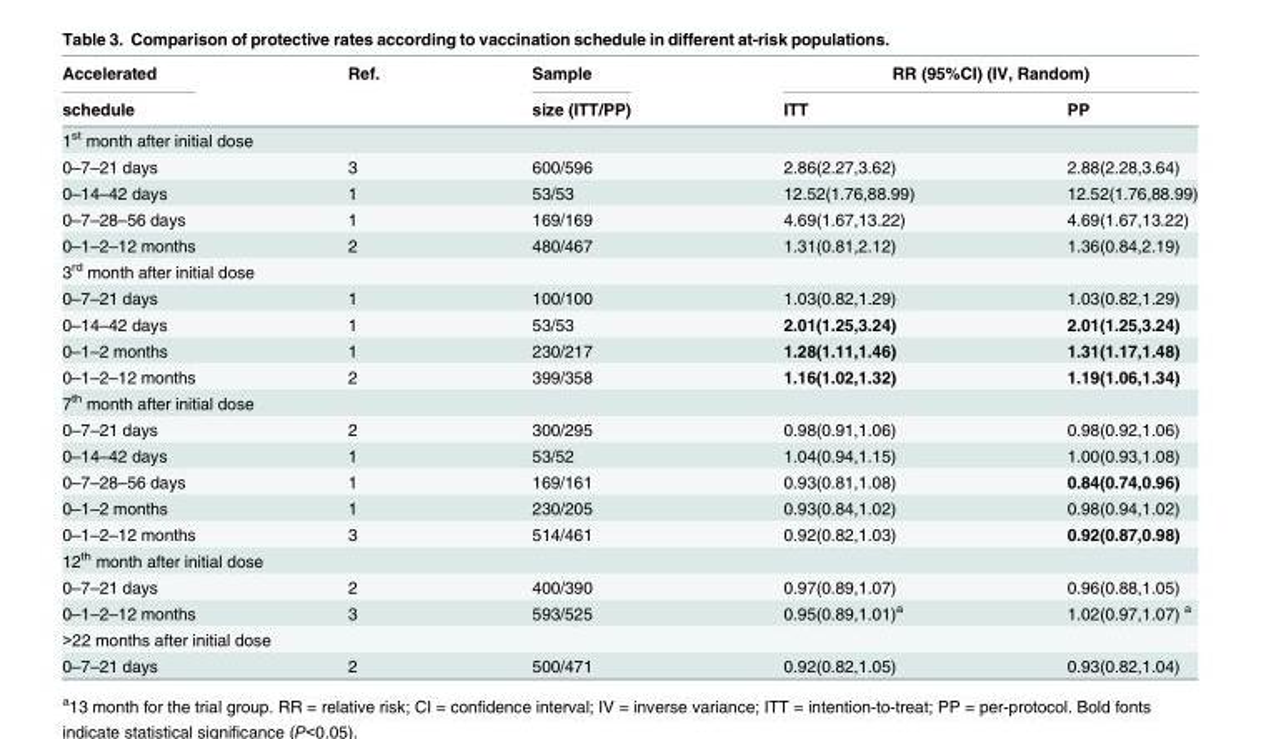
<table><thead><tr><td rowspan="2">Accelerated schedule</td><td rowspan="2">Ref.</td><td rowspan="2">Sample size (ITT/PP)</td><td colspan="2">RR (95%CI) (IV, Random)</td></tr><tr><td>ITT</td><td>PP</td></tr></thead><tbody><tr><td colspan="5">1<sup>st</sup> month after initial dose</td></tr><tr><td>0–7–21 days</td><td>3</td><td>600/596</td><td>2.86(2.27,3.62)</td><td>2.88(2.28,3.64)</td></tr><tr><td>0–14–42 days</td><td>1</td><td>53/53</td><td>12.52(1.76,88.99)</td><td>12.52(1.76,88.99)</td></tr><tr><td>0–7–28–56 days</td><td>1</td><td>169/169</td><td>4.69(1.67,13.22)</td><td>4.69(1.67,13.22)</td></tr><tr><td>0–1–2–12 months</td><td>2</td><td>480/467</td><td>1.31(0.81,2.12)</td><td>1.36(0.84,2.19)</td></tr><tr><td colspan="5">3<sup>rd</sup> month after initial dose</td></tr><tr><td>0–7–21 days</td><td>1</td><td>100/100</td><td>1.03(0.82,1.29)</td><td>1.03(0.82,1.29)</td></tr><tr><td>0–14–42 days</td><td>1</td><td>53/53</td><td>2.01(1.25,3.24)</td><td>2.01(1.25,3.24)</td></tr><tr><td>0–1–2 months</td><td>1</td><td>230/217</td><td>1.28(1.11,1.46)</td><td>1.31(1.17,1.48)</td></tr><tr><td>0–1–2–12 months</td><td>2</td><td>399/358</td><td>1.16(1.02,1.32)</td><td>1.19(1.06,1.34)</td></tr><tr><td colspan="5">7<sup>th</sup> month after initial dose</td></tr><tr><td>0–7–21 days</td><td>2</td><td>300/295</td><td>0.98(0.91,1.06)</td><td>0.98(0.92,1.06)</td></tr><tr><td>0–14–42 days</td><td>1</td><td>53/52</td><td>1.04(0.94,1.15)</td><td>1.00(0.93,1.08)</td></tr><tr><td>0–7–28–56 days</td><td>1</td><td>169/161</td><td>0.93(0.81,1.08)</td><td>0.84(0.74,0.96)</td></tr><tr><td>0–1–2 months</td><td>1</td><td>230/205</td><td>0.93(0.84,1.02)</td><td>0.98(0.94,1.02)</td></tr><tr><td>0–1–2–12 months</td><td>3</td><td>514/461</td><td>0.92(0.82,1.03)</td><td>0.92(0.87,0.98)</td></tr><tr><td colspan="5">12<sup>th</sup> month after initial dose</td></tr><tr><td>0–7–21 days</td><td>2</td><td>400/390</td><td>0.97(0.89,1.07)</td><td>0.96(0.88,1.05)</td></tr><tr><td>0–1–2–12 months</td><td>3</td><td>593/525</td><td>0.95(0.89,1.01)<sup>a</sup></td><td>1.02(0.97,1.07) <sup>a</sup></td></tr><tr><td colspan="5">&gt;22 months after initial dose</td></tr><tr><td>0–7–21 days</td><td>2</td><td>500/471</td><td>0.92(0.82,1.05)</td><td>0.93(0.82,1.04)</td></tr></tbody></table>